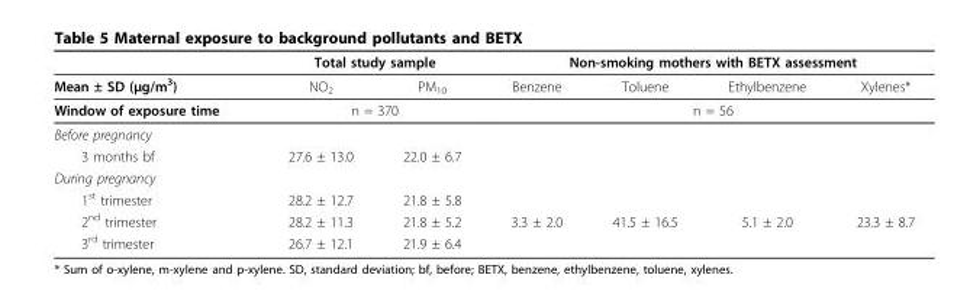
<table><thead><tr><td rowspan="2">Mean ± SD (μg/m<sup>3</sup>)</td><td colspan="2">Total study sample</td><td colspan="4">Non-smoking mothers with BETX assessment</td></tr><tr><td>NO<sub>2</sub></td><td>PM<sub>10</sub></td><td>Benzene</td><td>Toluene</td><td>Ethylbenzene</td><td>Xylenes*</td></tr></thead><tbody><tr><td>Window of exposure time</td><td colspan="2">n = 370</td><td colspan="4">n = 56</td></tr><tr><td colspan="7">Before pregnancy</td></tr><tr><td>3 months bf</td><td>27.6 ± 13.0</td><td>22.0 ± 6.7</td><td></td><td></td><td></td><td></td></tr><tr><td colspan="7">During pregnancy</td></tr><tr><td>1<sup>st</sup> trimester</td><td>28.2 ± 12.7</td><td>21.8 ± 5.8</td><td></td><td></td><td></td><td></td></tr><tr><td>2<sup>nd</sup> trimester</td><td>28.2 ± 11.3</td><td>21.8 ± 5.2</td><td>3.3 ± 2.0</td><td>41.5 ± 16.5</td><td>5.1 ± 2.0</td><td>23.3 ± 8.7</td></tr><tr><td>3<sup>rd</sup> trimester</td><td>26.7 ± 12.1</td><td>21.9 ± 6.4</td><td></td><td></td><td></td><td></td></tr></tbody></table>